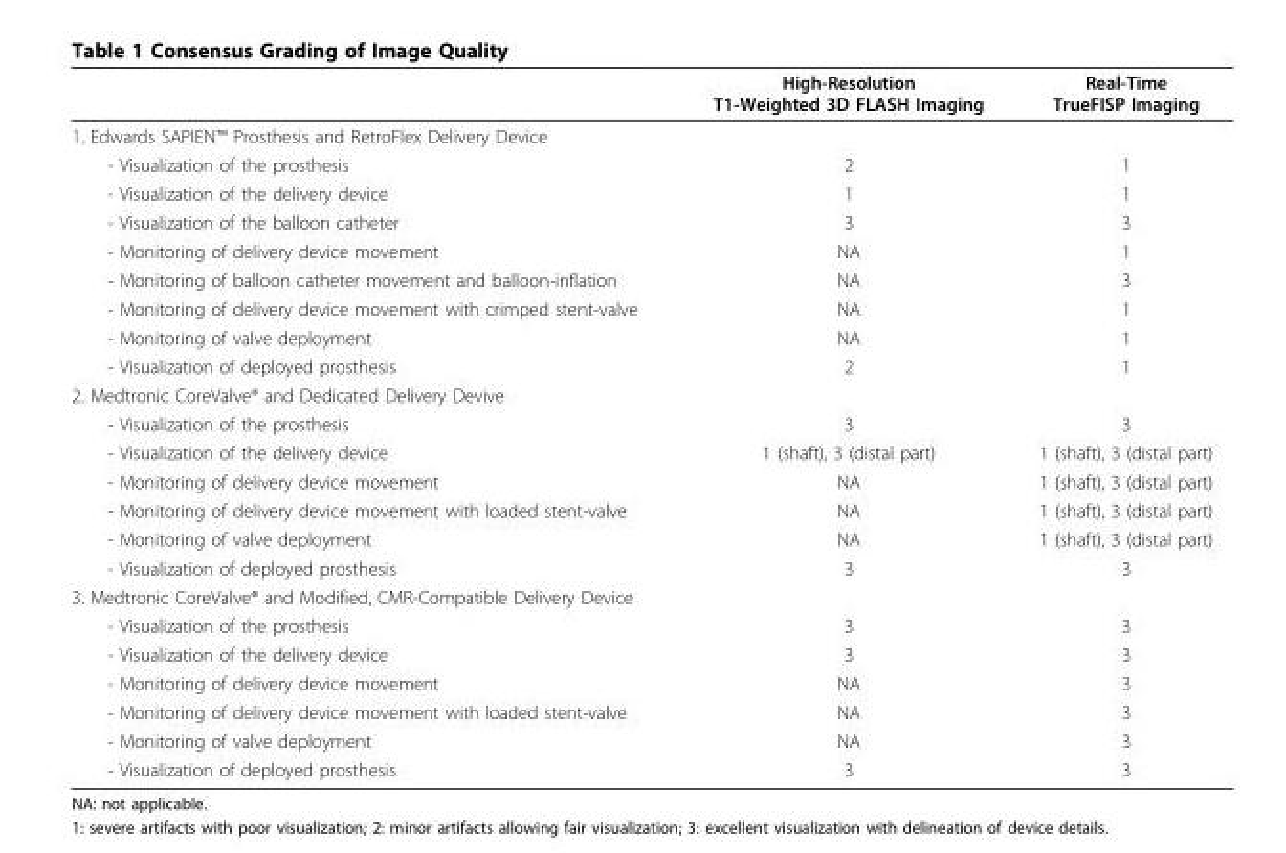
<table><thead><tr><td></td><td>High-Resolution T1-Weighted 3D FLASH Imaging</td><td>Real-Time TrueFISP Imaging</td></tr></thead><tbody><tr><td colspan="3">1. Edwards SAPIEN™ Prosthesis and RetroFlex Delivery Device</td></tr><tr><td>- Visualization of the prosthesis</td><td>2</td><td>1</td></tr><tr><td>- Visualization of the delivery device</td><td>1</td><td>1</td></tr><tr><td>- Visualization of the balloon catheter</td><td>3</td><td>3</td></tr><tr><td>- Monitoring of delivery device movement</td><td>NA</td><td>1</td></tr><tr><td>- Monitoring of balloon catheter movement and balloon-inflation</td><td>NA</td><td>3</td></tr><tr><td>- Monitoring of delivery device movement with crimped stent-valve</td><td>NA</td><td>1</td></tr><tr><td>- Monitoring of valve deployment</td><td>NA</td><td>1</td></tr><tr><td>- Visualization of deployed prosthesis</td><td>2</td><td>1</td></tr><tr><td colspan="3">2. Medtronic CoreValve<sup>®</sup> and Dedicated Delivery Devive</td></tr><tr><td>- Visualization of the prosthesis</td><td>3</td><td>3</td></tr><tr><td>- Visualization of the delivery device</td><td>1 (shaft), 3 (distal part)</td><td>1 (shaft), 3 (distal part)</td></tr><tr><td>- Monitoring of delivery device movement</td><td>NA</td><td>1 (shaft), 3 (distal part)</td></tr><tr><td>- Monitoring of delivery device movement with loaded stent-valve</td><td>NA</td><td>1 (shaft), 3 (distal part)</td></tr><tr><td>- Monitoring of valve deployment</td><td>NA</td><td>1 (shaft), 3 (distal part)</td></tr><tr><td>- Visualization of deployed prosthesis</td><td>3</td><td>3</td></tr><tr><td colspan="3">3. Medtronic CoreValve<sup>®</sup> and Modified, CMR-Compatible Delivery Device</td></tr><tr><td>- Visualization of the prosthesis</td><td>3</td><td>3</td></tr><tr><td>- Visualization of the delivery device</td><td>3</td><td>3</td></tr><tr><td>- Monitoring of delivery device movement</td><td>NA</td><td>3</td></tr><tr><td>- Monitoring of delivery device movement with loaded stent-valve</td><td>NA</td><td>3</td></tr><tr><td>- Monitoring of valve deployment</td><td>NA</td><td>3</td></tr><tr><td>- Visualization of deployed prosthesis</td><td>3</td><td>3</td></tr></tbody></table>